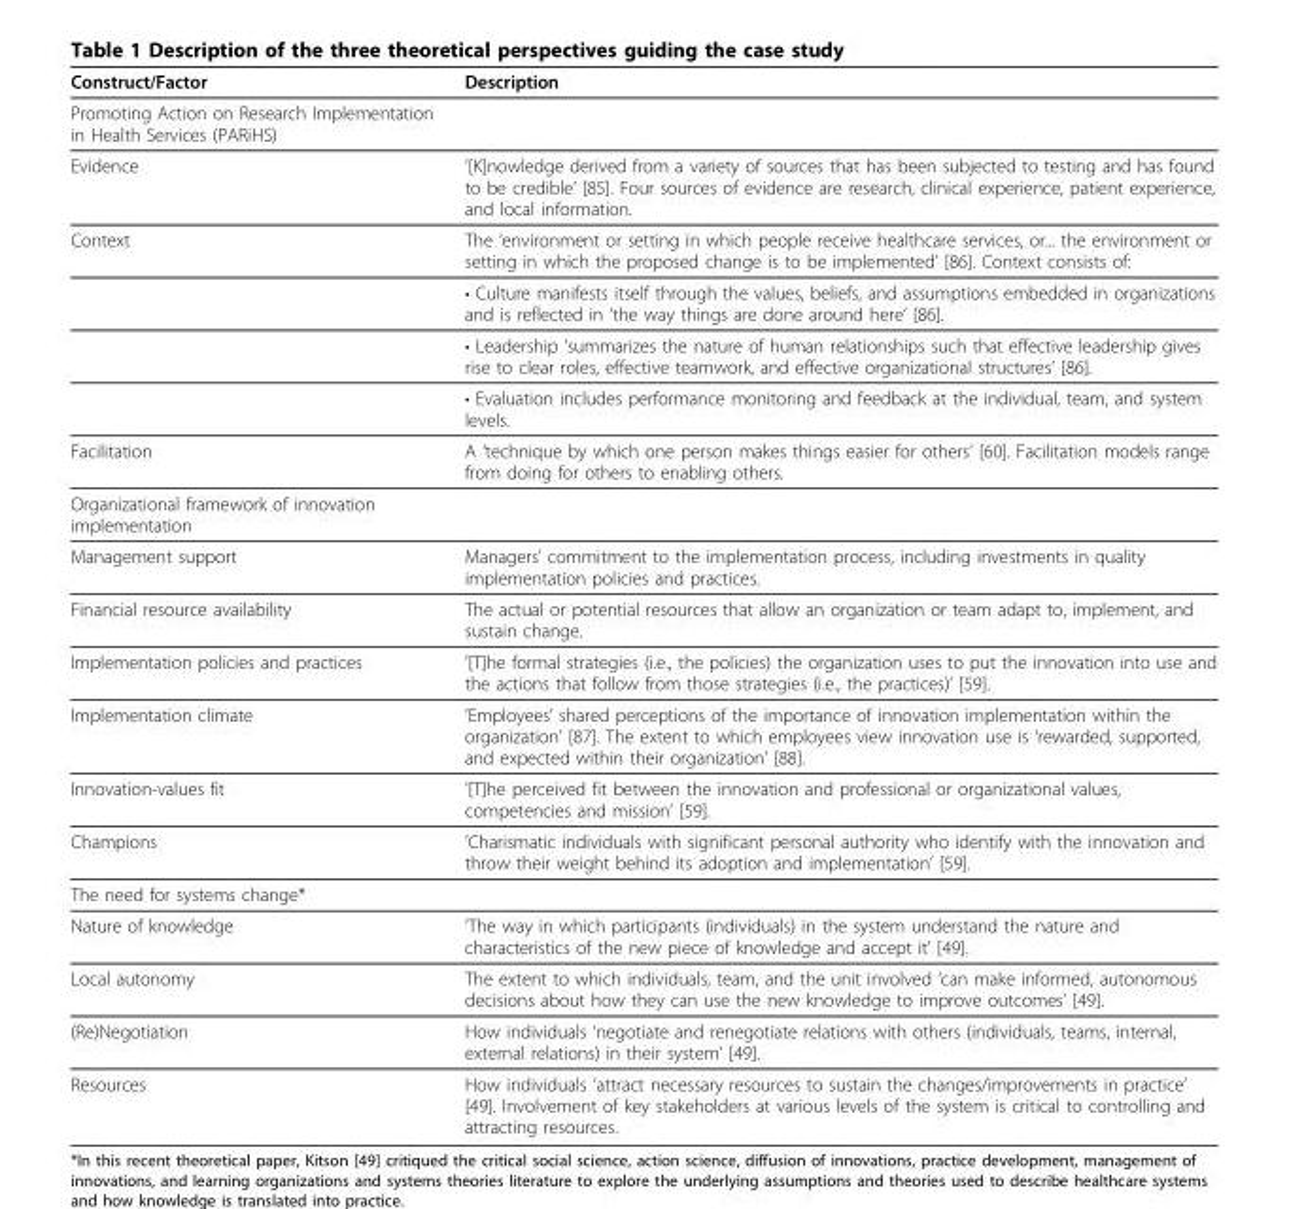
<table><thead><tr><td>Construct/Factor</td><td>Description</td></tr></thead><tbody><tr><td colspan="2">Promoting Action on Research Implementation in Health Services (PARiHS)</td></tr><tr><td>Evidence</td><td>’[K]nowledge derived from a variety of sources that has been subjected to testing and has found to be credible’ [85]. Four sources of evidence are research, clinical experience, patient experience, and local information.</td></tr><tr><td rowspan="4">Context</td><td>The ‘environment or setting in which people receive healthcare services, or... the environment or setting in which the proposed change is to be implemented’ [86]. Context consists of:</td></tr><tr><td>• Culture manifests itself through the values, beliefs, and assumptions embedded in organizations and is reflected in ‘the way things are done around here’ [86].</td></tr><tr><td>• Leadership ‘summarizes the nature of human relationships such that effective leadership gives rise to clear roles, effective teamwork, and effective organizational structures’ [86].</td></tr><tr><td>• Evaluation includes performance monitoring and feedback at the individual, team, and system levels.</td></tr><tr><td>Facilitation</td><td>A ‘technique by which one person makes things easier for others’ [60]. Facilitation models range from doing for others to enabling others.</td></tr><tr><td colspan="2">Organizational framework of innovation implementation</td></tr><tr><td>Management support</td><td>Managers’ commitment to the implementation process, including investments in quality implementation policies and practices.</td></tr><tr><td>Financial resource availability</td><td>The actual or potential resources that allow an organization or team adapt to, implement, and sustain change.</td></tr><tr><td>Implementation policies and practices</td><td>’[T]he formal strategies (i.e., the policies) the organization uses to put the innovation into use and the actions that follow from those strategies (i.e., the practices)’ [59].</td></tr><tr><td>Implementation climate</td><td>’Employees’ shared perceptions of the importance of innovation implementation within the organization’ [87]. The extent to which employees view innovation use is ‘rewarded, supported, and expected within their organization’ [88].</td></tr><tr><td>Innovation-values fit</td><td>’[T]he perceived fit between the innovation and professional or organizational values, competencies and mission’ [59].</td></tr><tr><td>Champions</td><td>’Charismatic individuals with significant personal authority who identify with the innovation and throw their weight behind its adoption and implementation’ [59].</td></tr><tr><td colspan="2">The need for systems change*</td></tr><tr><td>Nature of knowledge</td><td>’The way in which participants (individuals) in the system understand the nature and characteristics of the new piece of knowledge and accept it’ [49].</td></tr><tr><td>Local autonomy</td><td>The extent to which individuals, team, and the unit involved ‘can make informed, autonomous decisions about how they can use the new knowledge to improve outcomes’ [49].</td></tr><tr><td>(Re)Negotiation</td><td>How individuals ‘negotiate and renegotiate relations with others (individuals, teams, internal, external relations) in their system’ [49].</td></tr><tr><td>Resources</td><td>How individuals ‘attract necessary resources to sustain the changes/improvements in practice’ [49]. Involvement of key stakeholders at various levels of the system is critical to controlling and attracting resources.</td></tr></tbody></table>